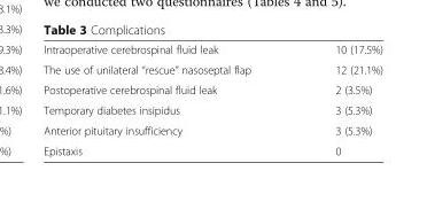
<table><tbody><tr><td>Intraoperative cerebrospinal fluid leak</td><td>10 (17.5%)</td></tr><tr><td>The use of unilateral “rescue” nasoseptal flap</td><td>12 (21.1%)</td></tr><tr><td>Postoperative cerebrospinal fluid leak</td><td>2 (3.5%)</td></tr><tr><td>Temporary diabetes insipidus</td><td>3 (5.3%)</td></tr><tr><td>Anterior pituitary insufficiency</td><td>3 (5.3%)</td></tr><tr><td>Epistaxis</td><td>0</td></tr></tbody></table>